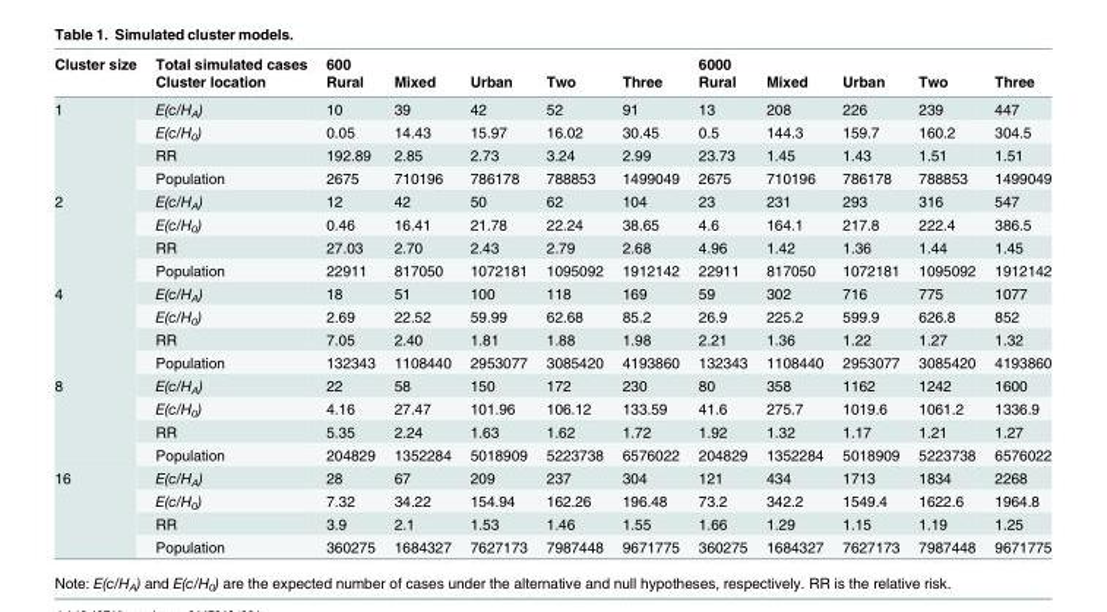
<table><thead><tr><td rowspan="2">Cluster size</td><td rowspan="2">Total simulated cases Cluster location</td><td rowspan="2">600 Rural</td><td rowspan="2">Mixed</td><td rowspan="2">Urban</td><td rowspan="2">Two</td><td rowspan="2">Three</td><td rowspan="2">6000 Rural</td><td rowspan="2">Mixed</td><td rowspan="2">Urban</td><td rowspan="2">Two</td><td rowspan="2">Three</td></tr><tr></tr></thead><tbody><tr><td rowspan="4">1</td><td>E(c/H<sub>A</sub>)</td><td>10</td><td>39</td><td>42</td><td>52</td><td>91</td><td>13</td><td>208</td><td>226</td><td>239</td><td>447</td></tr><tr><td>E(c/H<sub>0</sub>)</td><td>0.05</td><td>14.43</td><td>15.97</td><td>16.02</td><td>30.45</td><td>0.5</td><td>144.3</td><td>159.7</td><td>160.2</td><td>304.5</td></tr><tr><td>RR</td><td>192.89</td><td>2.85</td><td>2.73</td><td>3.24</td><td>2.99</td><td>23.73</td><td>1.45</td><td>1.43</td><td>1.51</td><td>1.51</td></tr><tr><td>Population</td><td>2675</td><td>710196</td><td>786178</td><td>788853</td><td>1499049</td><td>2675</td><td>710196</td><td>786178</td><td>788853</td><td>1499049</td></tr><tr><td rowspan="4">2</td><td>E(c/H<sub>A</sub>)</td><td>12</td><td>42</td><td>50</td><td>62</td><td>104</td><td>23</td><td>231</td><td>293</td><td>316</td><td>547</td></tr><tr><td>E(c/H<sub>0</sub>)</td><td>0.46</td><td>16.41</td><td>21.78</td><td>22.24</td><td>38.65</td><td>4.6</td><td>164.1</td><td>217.8</td><td>222.4</td><td>386.5</td></tr><tr><td>RR</td><td>27.03</td><td>2.70</td><td>2.43</td><td>2.79</td><td>2.68</td><td>4.96</td><td>1.42</td><td>1.36</td><td>1.44</td><td>1.45</td></tr><tr><td>Population</td><td>22911</td><td>817050</td><td>1072181</td><td>1095092</td><td>1912142</td><td>22911</td><td>817050</td><td>1072181</td><td>1095092</td><td>1912142</td></tr><tr><td rowspan="4">4</td><td>E(c/H<sub>A</sub>)</td><td>18</td><td>51</td><td>100</td><td>118</td><td>169</td><td>59</td><td>302</td><td>716</td><td>775</td><td>1077</td></tr><tr><td>E(c/H<sub>0</sub>)</td><td>2.69</td><td>22.52</td><td>59.99</td><td>62.68</td><td>85.2</td><td>26.9</td><td>225.2</td><td>599.9</td><td>626.8</td><td>852</td></tr><tr><td>RR</td><td>7.05</td><td>2.40</td><td>1.81</td><td>1.88</td><td>1.98</td><td>2.21</td><td>1.36</td><td>1.22</td><td>1.27</td><td>1.32</td></tr><tr><td>Population</td><td>132343</td><td>1108440</td><td>2953077</td><td>3085420</td><td>4193860</td><td>132343</td><td>1108440</td><td>2953077</td><td>3085420</td><td>4193860</td></tr><tr><td rowspan="4">8</td><td>E(c/H<sub>A</sub>)</td><td>22</td><td>58</td><td>150</td><td>172</td><td>230</td><td>80</td><td>358</td><td>1162</td><td>1242</td><td>1600</td></tr><tr><td>E(c/H<sub>0</sub>)</td><td>4.16</td><td>27.47</td><td>101.96</td><td>106.12</td><td>133.59</td><td>41.6</td><td>275.7</td><td>1019.6</td><td>1061.2</td><td>1336.9</td></tr><tr><td>RR</td><td>5.35</td><td>2.24</td><td>1.63</td><td>1.62</td><td>1.72</td><td>1.92</td><td>1.32</td><td>1.17</td><td>1.21</td><td>1.27</td></tr><tr><td>Population</td><td>204829</td><td>1352284</td><td>5018909</td><td>5223738</td><td>6576022</td><td>204829</td><td>1352284</td><td>5018909</td><td>5223738</td><td>6576022</td></tr><tr><td rowspan="4">16</td><td>E(c/H<sub>A</sub>)</td><td>28</td><td>67</td><td>209</td><td>237</td><td>304</td><td>121</td><td>434</td><td>1713</td><td>1834</td><td>2268</td></tr><tr><td>E(c/H<sub>0</sub>)</td><td>7.32</td><td>34.22</td><td>154.94</td><td>162.26</td><td>196.48</td><td>73.2</td><td>342.2</td><td>1549.4</td><td>1622.6</td><td>1964.8</td></tr><tr><td>RR</td><td>3.9</td><td>2.1</td><td>1.53</td><td>1.46</td><td>1.55</td><td>1.66</td><td>1.29</td><td>1.15</td><td>1.19</td><td>1.25</td></tr><tr><td>Population</td><td>360275</td><td>1684327</td><td>7627173</td><td>7987448</td><td>9671775</td><td>360275</td><td>1684327</td><td>7627173</td><td>7987448</td><td>9671775</td></tr></tbody></table>